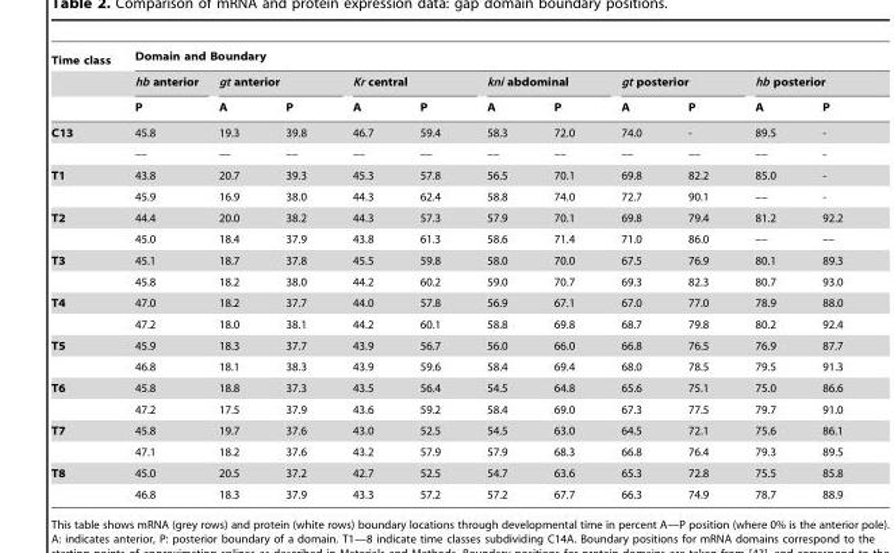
<table><thead><tr><td rowspan="3">Time class</td><td colspan="11">Domain and Boundary</td></tr><tr><td rowspan="2">hb anterior P</td><td colspan="2">gt anterior</td><td colspan="2">Kr central</td><td colspan="2">kni abdominal</td><td colspan="2">gt posterior</td><td colspan="2">hb posterior</td></tr><tr><td>A</td><td>P</td><td>A</td><td>P</td><td>A</td><td>P</td><td>A</td><td>P</td><td>A</td><td>P</td></tr></thead><tbody><tr><td rowspan="2">C13</td><td>45.8</td><td>19.3</td><td>39.8</td><td>46.7</td><td>59.4</td><td>58.3</td><td>72.0</td><td>74.0</td><td>-</td><td>89.5</td><td>-</td></tr><tr><td>––</td><td>––</td><td>––</td><td>––</td><td>––</td><td>––</td><td>––</td><td>––</td><td>––</td><td>––</td><td>-</td></tr><tr><td rowspan="2">T1</td><td>43.8</td><td>20.7</td><td>39.3</td><td>45.3</td><td>57.8</td><td>56.5</td><td>70.1</td><td>69.8</td><td>82.2</td><td>85.0</td><td>-</td></tr><tr><td>45.9</td><td>16.9</td><td>38.0</td><td>44.3</td><td>62.4</td><td>58.8</td><td>74.0</td><td>72.7</td><td>90.1</td><td>––</td><td>-</td></tr><tr><td rowspan="2">T2</td><td>44.4</td><td>20.0</td><td>38.2</td><td>44.3</td><td>57.3</td><td>57.9</td><td>70.1</td><td>69.8</td><td>79.4</td><td>81.2</td><td>92.2</td></tr><tr><td>45.0</td><td>18.4</td><td>37.9</td><td>43.8</td><td>61.3</td><td>58.6</td><td>71.4</td><td>71.0</td><td>86.0</td><td>––</td><td>––</td></tr><tr><td rowspan="2">T3</td><td>45.1</td><td>18.7</td><td>37.8</td><td>45.5</td><td>59.8</td><td>58.0</td><td>70.0</td><td>67.5</td><td>76.9</td><td>80.1</td><td>89.3</td></tr><tr><td>45.8</td><td>18.2</td><td>38.0</td><td>44.2</td><td>60.2</td><td>59.0</td><td>70.7</td><td>69.3</td><td>82.3</td><td>80.7</td><td>93.0</td></tr><tr><td rowspan="2">T4</td><td>47.0</td><td>18.2</td><td>37.7</td><td>44.0</td><td>57.8</td><td>56.9</td><td>67.1</td><td>67.0</td><td>77.0</td><td>78.9</td><td>88.0</td></tr><tr><td>47.2</td><td>18.0</td><td>38.1</td><td>44.2</td><td>60.1</td><td>58.8</td><td>69.8</td><td>68.7</td><td>79.8</td><td>80.2</td><td>92.4</td></tr><tr><td rowspan="2">T5</td><td>45.9</td><td>18.3</td><td>37.7</td><td>43.9</td><td>56.7</td><td>56.0</td><td>66.0</td><td>66.8</td><td>76.5</td><td>76.9</td><td>87.7</td></tr><tr><td>46.8</td><td>18.1</td><td>38.3</td><td>43.9</td><td>59.6</td><td>58.4</td><td>69.4</td><td>68.0</td><td>78.5</td><td>79.5</td><td>91.3</td></tr><tr><td rowspan="2">T6</td><td>45.8</td><td>18.8</td><td>37.3</td><td>43.5</td><td>56.4</td><td>54.5</td><td>64.8</td><td>65.6</td><td>75.1</td><td>75.0</td><td>86.6</td></tr><tr><td>47.2</td><td>17.5</td><td>37.9</td><td>43.6</td><td>59.2</td><td>58.4</td><td>69.0</td><td>67.3</td><td>77.5</td><td>79.7</td><td>91.0</td></tr><tr><td rowspan="2">T7</td><td>45.8</td><td>19.7</td><td>37.6</td><td>43.0</td><td>52.5</td><td>54.5</td><td>63.0</td><td>64.5</td><td>72.1</td><td>75.6</td><td>86.1</td></tr><tr><td>47.1</td><td>18.2</td><td>37.6</td><td>43.2</td><td>57.9</td><td>57.9</td><td>68.3</td><td>66.8</td><td>76.4</td><td>79.3</td><td>89.5</td></tr><tr><td rowspan="2">T8</td><td>45.0</td><td>20.5</td><td>37.2</td><td>42.7</td><td>52.5</td><td>54.7</td><td>63.6</td><td>65.3</td><td>72.8</td><td>75.5</td><td>85.8</td></tr><tr><td>46.8</td><td>18.3</td><td>37.9</td><td>43.3</td><td>57.2</td><td>57.2</td><td>67.7</td><td>66.3</td><td>74.9</td><td>78.7</td><td>88.9</td></tr></tbody></table>